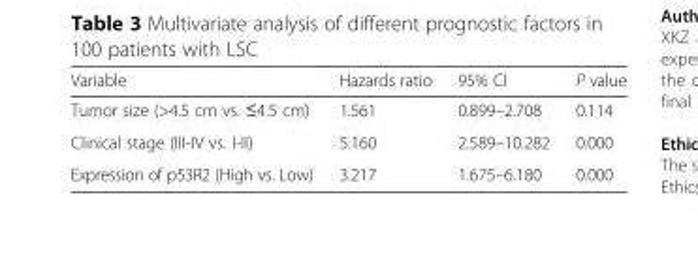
<table><thead><tr><td>Variable</td><td>Hazards ratio</td><td>95% CI</td><td>P value</td></tr></thead><tbody><tr><td>Tumor size (&gt;4.5 cm vs. ≤4.5 cm)</td><td>1.561</td><td>0.899–2.708</td><td>0.114</td></tr><tr><td>Clinical stage (III-IV vs. I-II)</td><td>5.160</td><td>2.589–10.282</td><td>0.000</td></tr><tr><td>Expression of p53R2 (High vs. Low)</td><td>3.217</td><td>1.675–6.180</td><td>0.000</td></tr></tbody></table>